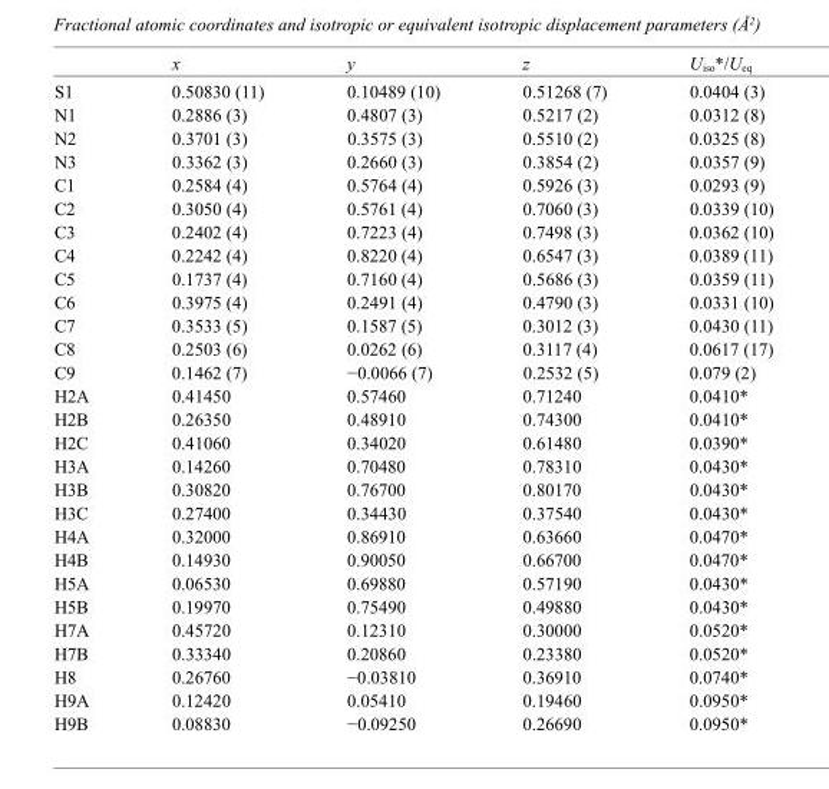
<table><thead><tr><td></td><td>x</td><td>y</td><td>z</td><td>U<sub>iso</sub>*/U<sub>eq</sub></td></tr></thead><tbody><tr><td>S1</td><td>0.50830 (11)</td><td>0.10489 (10)</td><td>0.51268 (7)</td><td>0.0404 (3)</td></tr><tr><td>N1</td><td>0.2886 (3)</td><td>0.4807 (3)</td><td>0.5217 (2)</td><td>0.0312 (8)</td></tr><tr><td>N2</td><td>0.3701 (3)</td><td>0.3575 (3)</td><td>0.5510 (2)</td><td>0.0325 (8)</td></tr><tr><td>N3</td><td>0.3362 (3)</td><td>0.2660 (3)</td><td>0.3854 (2)</td><td>0.0357 (9)</td></tr><tr><td>C1</td><td>0.2584 (4)</td><td>0.5764 (4)</td><td>0.5926 (3)</td><td>0.0293 (9)</td></tr><tr><td>C2</td><td>0.3050 (4)</td><td>0.5761 (4)</td><td>0.7060 (3)</td><td>0.0339 (10)</td></tr><tr><td>C3</td><td>0.2402 (4)</td><td>0.7223 (4)</td><td>0.7498 (3)</td><td>0.0362 (10)</td></tr><tr><td>C4</td><td>0.2242 (4)</td><td>0.8220 (4)</td><td>0.6547 (3)</td><td>0.0389 (11)</td></tr><tr><td>C5</td><td>0.1737 (4)</td><td>0.7160 (4)</td><td>0.5686 (3)</td><td>0.0359 (11)</td></tr><tr><td>C6</td><td>0.3975 (4)</td><td>0.2491 (4)</td><td>0.4790 (3)</td><td>0.0331 (10)</td></tr><tr><td>C7</td><td>0.3533 (5)</td><td>0.1587 (5)</td><td>0.3012 (3)</td><td>0.0430 (11)</td></tr><tr><td>C8</td><td>0.2503 (6)</td><td>0.0262 (6)</td><td>0.3117 (4)</td><td>0.0617 (17)</td></tr><tr><td>C9</td><td>0.1462 (7)</td><td>−0.0066 (7)</td><td>0.2532 (5)</td><td>0.079 (2)</td></tr><tr><td>H2A</td><td>0.41450</td><td>0.57460</td><td>0.71240</td><td>0.0410*</td></tr><tr><td>H2B</td><td>0.26350</td><td>0.48910</td><td>0.74300</td><td>0.0410*</td></tr><tr><td>H2C</td><td>0.41060</td><td>0.34020</td><td>0.61480</td><td>0.0390*</td></tr><tr><td>H3A</td><td>0.14260</td><td>0.70480</td><td>0.78310</td><td>0.0430*</td></tr><tr><td>H3B</td><td>0.30820</td><td>0.76700</td><td>0.80170</td><td>0.0430*</td></tr><tr><td>H3C</td><td>0.27400</td><td>0.34430</td><td>0.37540</td><td>0.0430*</td></tr><tr><td>H4A</td><td>0.32000</td><td>0.86910</td><td>0.63660</td><td>0.0470*</td></tr><tr><td>H4B</td><td>0.14930</td><td>0.90050</td><td>0.66700</td><td>0.0470*</td></tr><tr><td>H5A</td><td>0.06530</td><td>0.69880</td><td>0.57190</td><td>0.0430*</td></tr><tr><td>H5B</td><td>0.19970</td><td>0.75490</td><td>0.49880</td><td>0.0430*</td></tr><tr><td>H7A</td><td>0.45720</td><td>0.12310</td><td>0.30000</td><td>0.0520*</td></tr><tr><td>H7B</td><td>0.33340</td><td>0.20860</td><td>0.23380</td><td>0.0520*</td></tr><tr><td>H8</td><td>0.26760</td><td>−0.03810</td><td>0.36910</td><td>0.0740*</td></tr><tr><td>H9A</td><td>0.12420</td><td>0.05410</td><td>0.19460</td><td>0.0950*</td></tr><tr><td>H9B</td><td>0.08830</td><td>−0.09250</td><td>0.26690</td><td>0.0950*</td></tr></tbody></table>